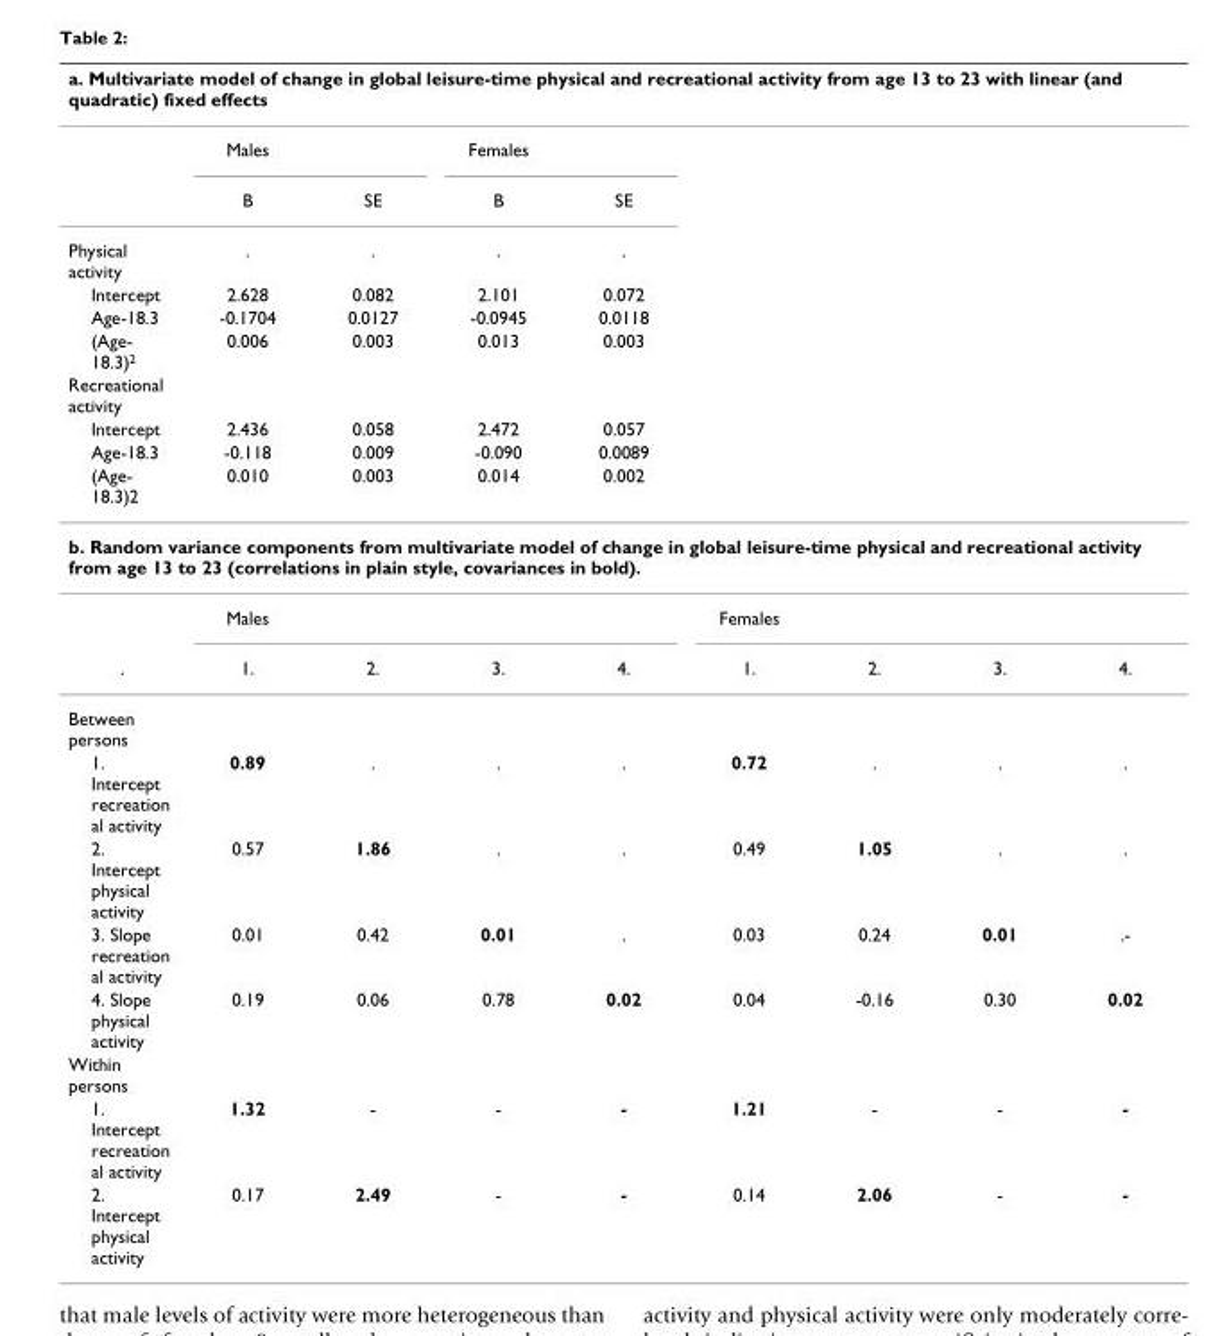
<table><thead><tr><td colspan="9">a. Multivariate model of change in global leisure-time physical and recreational activity from age 13 to 23 with linear (and quadratic) fixed effects</td></tr><tr><td></td><td>Males</td><td></td><td>Females</td><td></td><td></td><td></td><td></td><td></td></tr></thead><tbody><tr><td></td><td>B</td><td>SE</td><td>B</td><td>SE</td><td></td><td></td><td></td><td></td></tr><tr><td>Physical activity</td><td>.</td><td>.</td><td>.</td><td>.</td><td></td><td></td><td></td><td></td></tr><tr><td>Intercept</td><td>2.628</td><td>0.082</td><td>2.101</td><td>0.072</td><td></td><td></td><td></td><td></td></tr><tr><td>Age-18.3</td><td>-0.1704</td><td>0.0127</td><td>-0.0945</td><td>0.0118</td><td></td><td></td><td></td><td></td></tr><tr><td>(Age- 18.3)<sup>2</sup></td><td>0.006</td><td>0.003</td><td>0.013</td><td>0.003</td><td></td><td></td><td></td><td></td></tr><tr><td colspan="9">Recreational activity</td></tr><tr><td>Intercept</td><td>2.436</td><td>0.058</td><td>2.472</td><td>0.057</td><td></td><td></td><td></td><td></td></tr><tr><td>Age-18.3</td><td>-0.118</td><td>0.009</td><td>-0.090</td><td>0.0089</td><td></td><td></td><td></td><td></td></tr><tr><td>(Age- 18.3)2</td><td>0.010</td><td>0.003</td><td>0.014</td><td>0.002</td><td></td><td></td><td></td><td></td></tr><tr><td colspan="9">b. Random variance components from multivariate model of change in global leisure-time physical and recreational activity from age 13 to 23 (correlations in plain style, covariances in bold).</td></tr><tr><td></td><td>Males</td><td></td><td></td><td></td><td>Females</td><td></td><td></td><td></td></tr><tr><td>.</td><td>1.</td><td>2.</td><td>3.</td><td>4.</td><td>1.</td><td>2.</td><td>3.</td><td>4.</td></tr><tr><td colspan="9">Between persons</td></tr><tr><td>1. Intercept recreation al activity</td><td>0.89</td><td>.</td><td>.</td><td>.</td><td>0.72</td><td>.</td><td>.</td><td>.</td></tr><tr><td>2. Intercept physical activity</td><td>0.57</td><td>1.86</td><td>.</td><td>.</td><td>0.49</td><td>1.05</td><td>.</td><td>.</td></tr><tr><td>3. Slope recreation al activity</td><td>0.01</td><td>0.42</td><td>0.01</td><td>.</td><td>0.03</td><td>0.24</td><td>0.01</td><td>.-</td></tr><tr><td>4. Slope physical activity</td><td>0.19</td><td>0.06</td><td>0.78</td><td>0.02</td><td>0.04</td><td>-0.16</td><td>0.30</td><td>0.02</td></tr><tr><td colspan="9">Within persons</td></tr><tr><td>1. Intercept recreation al activity</td><td>1.32</td><td>-</td><td>-</td><td>-</td><td>1.21</td><td>-</td><td>-</td><td>-</td></tr><tr><td>2. Intercept physical activity</td><td>0.17</td><td>2.49</td><td>-</td><td>-</td><td>0.14</td><td>2.06</td><td>-</td><td>-</td></tr></tbody></table>